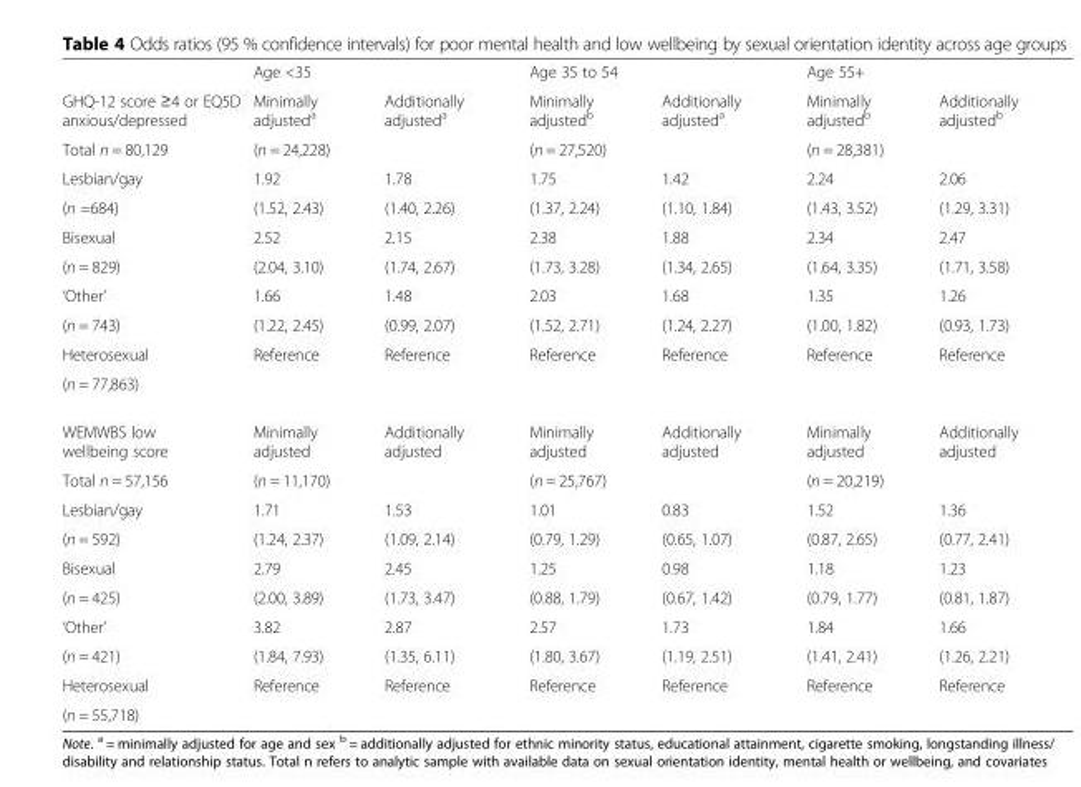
<table><thead><tr><td rowspan="2">GHQ-12 score ≥4 or EQ5D anxious/depressed</td><td colspan="2">Age &lt;35</td><td colspan="2">Age 35 to 54</td><td colspan="2">Age 55+</td></tr><tr><td>Minimally adjusted<sup>a</sup></td><td>Additionally adjusted<sup>a</sup></td><td>Minimally adjusted<sup>b</sup></td><td>Additionally adjusted<sup>a</sup></td><td>Minimally adjusted<sup>b</sup></td><td>Additionally adjusted<sup>b</sup></td></tr></thead><tbody><tr><td>Total n = 80,129</td><td colspan="2">(n = 24,228)</td><td colspan="2">(n = 27,520)</td><td colspan="2">(n = 28,381)</td></tr><tr><td>Lesbian/gay</td><td>1.92</td><td>1.78</td><td>1.75</td><td>1.42</td><td>2.24</td><td>2.06</td></tr><tr><td>(n =684)</td><td>(1.52, 2.43)</td><td>(1.40, 2.26)</td><td>(1.37, 2.24)</td><td>(1.10, 1.84)</td><td>(1.43, 3.52)</td><td>(1.29, 3.31)</td></tr><tr><td>Bisexual</td><td>2.52</td><td>2.15</td><td>2.38</td><td>1.88</td><td>2.34</td><td>2.47</td></tr><tr><td>(n = 829)</td><td>(2.04, 3.10)</td><td>(1.74, 2.67)</td><td>(1.73, 3.28)</td><td>(1.34, 2.65)</td><td>(1.64, 3.35)</td><td>(1.71, 3.58)</td></tr><tr><td>‘Other’</td><td>1.66</td><td>1.48</td><td>2.03</td><td>1.68</td><td>1.35</td><td>1.26</td></tr><tr><td>(n = 743)</td><td>(1.22, 2.45)</td><td>(0.99, 2.07)</td><td>(1.52, 2.71)</td><td>(1.24, 2.27)</td><td>(1.00, 1.82)</td><td>(0.93, 1.73)</td></tr><tr><td>Heterosexual</td><td rowspan="2">Reference</td><td rowspan="2">Reference</td><td rowspan="2">Reference</td><td rowspan="2">Reference</td><td rowspan="2">Reference</td><td rowspan="2">Reference</td></tr><tr><td>(n = 77,863)</td></tr><tr><td>WEMWBS low wellbeing score</td><td>Minimally adjusted</td><td>Additionally adjusted</td><td>Minimally adjusted</td><td>Additionally adjusted</td><td>Minimally adjusted</td><td>Additionally adjusted</td></tr><tr><td>Total n = 57,156</td><td colspan="2">(n = 11,170)</td><td colspan="2">(n = 25,767)</td><td colspan="2">(n = 20,219)</td></tr><tr><td>Lesbian/gay</td><td>1.71</td><td>1.53</td><td>1.01</td><td>0.83</td><td>1.52</td><td>1.36</td></tr><tr><td>(n = 592)</td><td>(1.24, 2.37)</td><td>(1.09, 2.14)</td><td>(0.79, 1.29)</td><td>(0.65, 1.07)</td><td>(0.87, 2.65)</td><td>(0.77, 2.41)</td></tr><tr><td>Bisexual</td><td>2.79</td><td>2.45</td><td>1.25</td><td>0.98</td><td>1.18</td><td>1.23</td></tr><tr><td>(n = 425)</td><td>(2.00, 3.89)</td><td>(1.73, 3.47)</td><td>(0.88, 1.79)</td><td>(0.67, 1.42)</td><td>(0.79, 1.77)</td><td>(0.81, 1.87)</td></tr><tr><td>‘Other’</td><td>3.82</td><td>2.87</td><td>2.57</td><td>1.73</td><td>1.84</td><td>1.66</td></tr><tr><td>(n = 421)</td><td>(1.84, 7.93)</td><td>(1.35, 6.11)</td><td>(1.80, 3.67)</td><td>(1.19, 2.51)</td><td>(1.41, 2.41)</td><td>(1.26, 2.21)</td></tr><tr><td>Heterosexual</td><td rowspan="2">Reference</td><td rowspan="2">Reference</td><td rowspan="2">Reference</td><td rowspan="2">Reference</td><td rowspan="2">Reference</td><td rowspan="2">Reference</td></tr><tr><td>(n = 55,718)</td></tr></tbody></table>